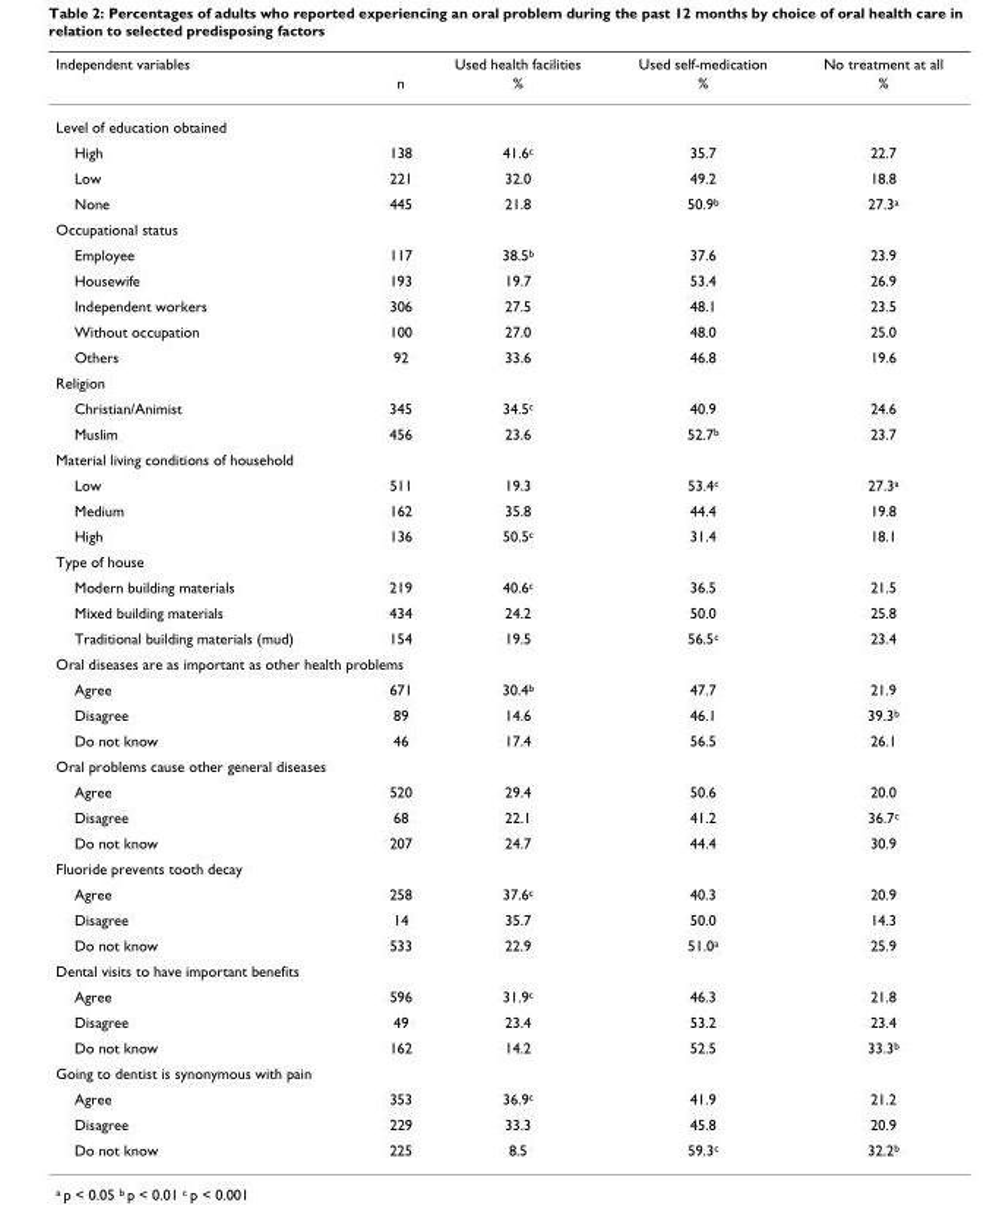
<table><thead><tr><td rowspan="2">Independent variables</td><td rowspan="2">n</td><td rowspan="2">Used health facilities %</td><td rowspan="2">Used self-medication %</td><td rowspan="2">No treatment at all %</td></tr><tr></tr></thead><tbody><tr><td colspan="5">Level of education obtained</td></tr><tr><td>High</td><td>138</td><td>41.6c</td><td>35.7</td><td>22.7</td></tr><tr><td>Low</td><td>221</td><td>32.0</td><td>49.2</td><td>18.8</td></tr><tr><td>None</td><td>445</td><td>21.8</td><td>50.9b</td><td>27.3a</td></tr><tr><td colspan="5">Occupational status</td></tr><tr><td>Employee</td><td>117</td><td>38.5b</td><td>37.6</td><td>23.9</td></tr><tr><td>Housewife</td><td>193</td><td>19.7</td><td>53.4</td><td>26.9</td></tr><tr><td>Independent workers</td><td>306</td><td>27.5</td><td>48.1</td><td>23.5</td></tr><tr><td>Without occupation</td><td>100</td><td>27.0</td><td>48.0</td><td>25.0</td></tr><tr><td>Others</td><td>92</td><td>33.6</td><td>46.8</td><td>19.6</td></tr><tr><td colspan="5">Religion</td></tr><tr><td>Christian/Animist</td><td>345</td><td>34.5c</td><td>40.9</td><td>24.6</td></tr><tr><td>Muslim</td><td>456</td><td>23.6</td><td>52.7b</td><td>23.7</td></tr><tr><td colspan="5">Material living conditions of household</td></tr><tr><td>Low</td><td>511</td><td>19.3</td><td>53.4c</td><td>27.3a</td></tr><tr><td>Medium</td><td>162</td><td>35.8</td><td>44.4</td><td>19.8</td></tr><tr><td>High</td><td>136</td><td>50.5c</td><td>31.4</td><td>18.1</td></tr><tr><td colspan="5">Type of house</td></tr><tr><td>Modern building materials</td><td>219</td><td>40.6c</td><td>36.5</td><td>21.5</td></tr><tr><td>Mixed building materials</td><td>434</td><td>24.2</td><td>50.0</td><td>25.8</td></tr><tr><td>Traditional building materials (mud)</td><td>154</td><td>19.5</td><td>56.5c</td><td>23.4</td></tr><tr><td colspan="5">Oral diseases are as important as other health problems</td></tr><tr><td>Agree</td><td>671</td><td>30.4b</td><td>47.7</td><td>21.9</td></tr><tr><td>Disagree</td><td>89</td><td>14.6</td><td>46.1</td><td>39.3b</td></tr><tr><td>Do not know</td><td>46</td><td>17.4</td><td>56.5</td><td>26.1</td></tr><tr><td colspan="5">Oral problems cause other general diseases</td></tr><tr><td>Agree</td><td>520</td><td>29.4</td><td>50.6</td><td>20.0</td></tr><tr><td>Disagree</td><td>68</td><td>22.1</td><td>41.2</td><td>36.7c</td></tr><tr><td>Do not know</td><td>207</td><td>24.7</td><td>44.4</td><td>30.9</td></tr><tr><td colspan="5">Fluoride prevents tooth decay</td></tr><tr><td>Agree</td><td>258</td><td>37.6c</td><td>40.3</td><td>20.9</td></tr><tr><td>Disagree</td><td>14</td><td>35.7</td><td>50.0</td><td>14.3</td></tr><tr><td>Do not know</td><td>533</td><td>22.9</td><td>51.0a</td><td>25.9</td></tr><tr><td colspan="5">Dental visits to have important benefits</td></tr><tr><td>Agree</td><td>596</td><td>31.9c</td><td>46.3</td><td>21.8</td></tr><tr><td>Disagree</td><td>49</td><td>23.4</td><td>53.2</td><td>23.4</td></tr><tr><td>Do not know</td><td>162</td><td>14.2</td><td>52.5</td><td>33.3b</td></tr><tr><td colspan="5">Going to dentist is synonymous with pain</td></tr><tr><td>Agree</td><td>353</td><td>36.9c</td><td>41.9</td><td>21.2</td></tr><tr><td>Disagree</td><td>229</td><td>33.3</td><td>45.8</td><td>20.9</td></tr><tr><td>Do not know</td><td>225</td><td>8.5</td><td>59.3c</td><td>32.2b</td></tr></tbody></table>